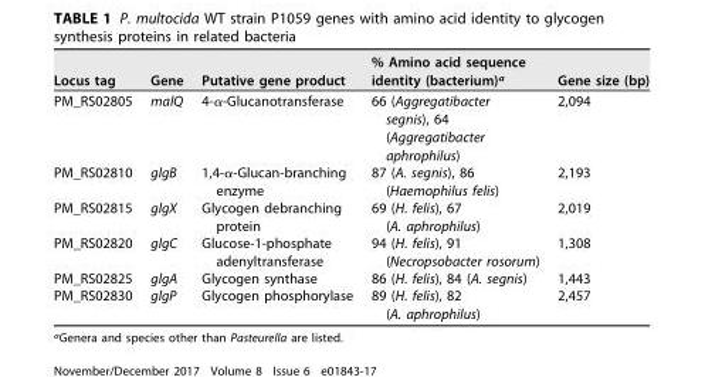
<table><thead><tr><td>Locus tag</td><td>Gene</td><td>Putative gene product</td><td>% Amino acid sequence identity (bacterium)<sup>a</sup></td><td>Gene size (bp)</td></tr></thead><tbody><tr><td>PM_RS02805</td><td>malQ</td><td>4-α-Glucanotransferase</td><td>66 (Aggregatibacter segnis), 64 (Aggregatibacter aphrophilus)</td><td>2,094</td></tr><tr><td>PM_RS02810</td><td>glgB</td><td>1,4-α-Glucan-branching enzyme</td><td>87 (A. segnis), 86 (Haemophilus felis)</td><td>2,193</td></tr><tr><td>PM_RS02815</td><td>glgX</td><td>Glycogen debranching protein</td><td>69 (H. felis), 67 (A. aphrophilus)</td><td>2,019</td></tr><tr><td>PM_RS02820</td><td>glgC</td><td>Glucose-1-phosphate adenyltransferase</td><td>94 (H. felis), 91 (Necropsobacter rosorum)</td><td>1,308</td></tr><tr><td>PM_RS02825</td><td>glgA</td><td>Glycogen synthase</td><td>86 (H. felis), 84 (A. segnis)</td><td>1,443</td></tr><tr><td>PM_RS02830</td><td>glgP</td><td>Glycogen phosphorylase</td><td>89 (H. felis), 82 (A. aphrophilus)</td><td>2,457</td></tr></tbody></table>